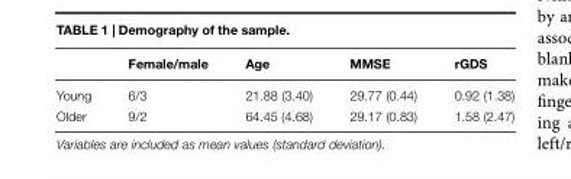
<table><thead><tr><td></td><td>Female/male</td><td>Age</td><td>MMSE</td><td>rGDS</td></tr></thead><tbody><tr><td>Young</td><td>6/3</td><td>21.88 (3.40)</td><td>29.77 (0.44)</td><td>0.92 (1.38)</td></tr><tr><td>Older</td><td>9/2</td><td>64.45 (4.68)</td><td>29.17 (0.83)</td><td>1.58 (2.47)</td></tr></tbody></table>